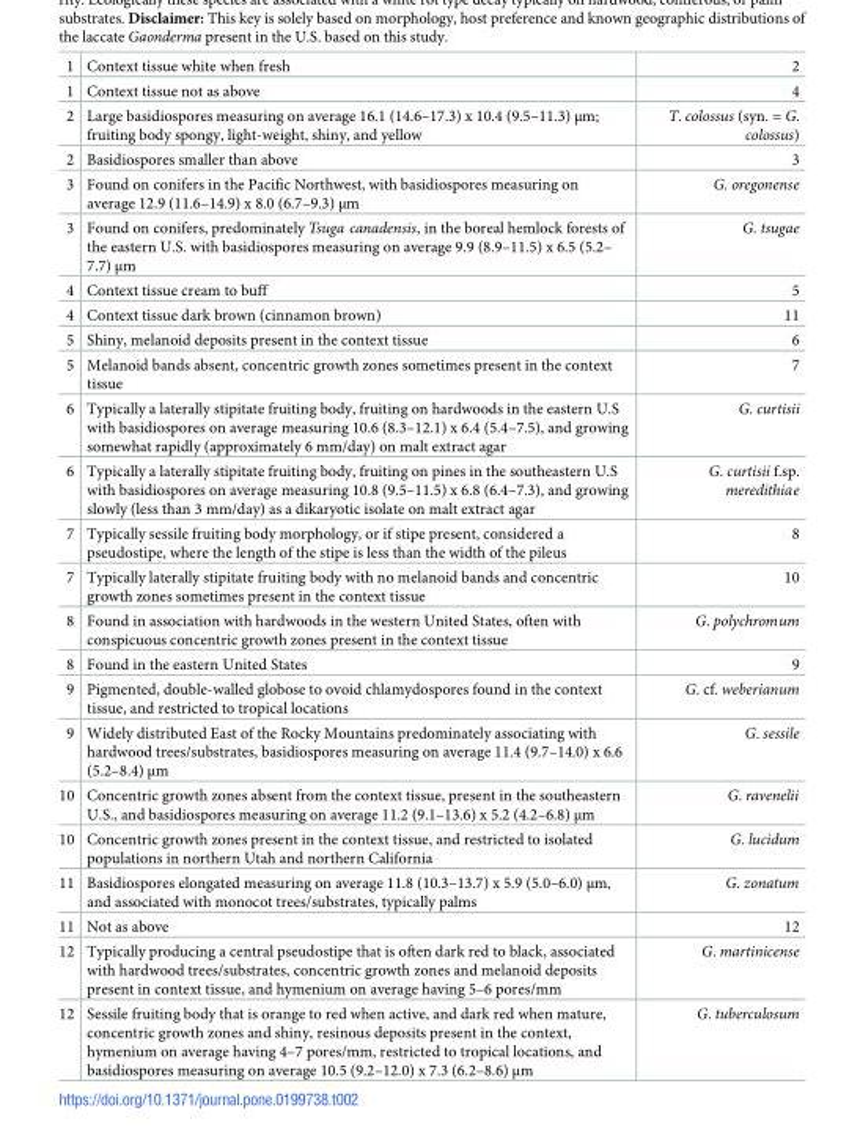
<table><tbody><tr><td>1</td><td>Context tissue white when fresh</td><td>2</td></tr><tr><td>1</td><td>Context tissue not as above</td><td>4</td></tr><tr><td>2</td><td>Large basidiospores measuring on average 16.1 (14.6–17.3) x 10.4 (9.5–11.3) μm; fruiting body spongy, light-weight, shiny, and yellow</td><td>T. colossus (syn. = G. colossus)</td></tr><tr><td>2</td><td>Basidiospores smaller than above</td><td>3</td></tr><tr><td>3</td><td>Found on conifers in the Pacific Northwest, with basidiospores measuring on average 12.9 (11.6–14.9) x 8.0 (6.7–9.3) μm</td><td>G. oregonense</td></tr><tr><td>3</td><td>Found on conifers, predominately Tsuga canadensis, in the boreal hemlock forests of the eastern U.S. with basidiospores measuring on average 9.9 (8.9–11.5) x 6.5 (5.2– 7.7) μm</td><td>G. tsugae</td></tr><tr><td>4</td><td>Context tissue cream to buff</td><td>5</td></tr><tr><td>4</td><td>Context tissue dark brown (cinnamon brown)</td><td>11</td></tr><tr><td>5</td><td>Shiny, melanoid deposits present in the context tissue</td><td>6</td></tr><tr><td>5</td><td>Melanoid bands absent, concentric growth zones sometimes present in the context tissue</td><td>7</td></tr><tr><td>6</td><td>Typically a laterally stipitate fruiting body, fruiting on hardwoods in the eastern U.S with basidiospores on average measuring 10.6 (8.3–12.1) x 6.4 (5.4–7.5), and growing somewhat rapidly (approximately 6 mm/day) on malt extract agar</td><td>G. curtisii</td></tr><tr><td>6</td><td>Typically a laterally stipitate fruiting body, fruiting on pines in the southeastern U.S with basidiospores on average measuring 10.8 (9.5–11.5) x 6.8 (6.4–7.3), and growing slowly (less than 3 mm/day) as a dikaryotic isolate on malt extract agar</td><td>G. curtisii f.sp. meredithiae</td></tr><tr><td>7</td><td>Typically sessile fruiting body morphology, or if stipe present, considered a pseudostipe, where the length of the stipe is less than the width of the pileus</td><td>8</td></tr><tr><td>7</td><td>Typically laterally stipitate fruiting body with no melanoid bands and concentric growth zones sometimes present in the context tissue</td><td>10</td></tr><tr><td>8</td><td>Found in association with hardwoods in the western United States, often with conspicuous concentric growth zones present in the context tissue</td><td>G. polychromum</td></tr><tr><td>8</td><td>Found in the eastern United States</td><td>9</td></tr><tr><td>9</td><td>Pigmented, double-walled globose to ovoid chlamydospores found in the context tissue, and restricted to tropical locations</td><td>G. cf. weberianum</td></tr><tr><td>9</td><td>Widely distributed East of the Rocky Mountains predominately associating with hardwood trees/substrates, basidiospores measuring on average 11.4 (9.7–14.0) x 6.6 (5.2–8.4) μm</td><td>G. sessile</td></tr><tr><td>10</td><td>Concentric growth zones absent from the context tissue, present in the southeastern U.S., and basidiospores measuring on average 11.2 (9.1–13.6) x 5.2 (4.2–6.8) μm</td><td>G. ravenelii</td></tr><tr><td>10</td><td>Concentric growth zones present in the context tissue, and restricted to isolated populations in northern Utah and northern California</td><td>G. lucidum</td></tr><tr><td>11</td><td>Basidiospores elongated measuring on average 11.8 (10.3–13.7) x 5.9 (5.0–6.0) μm, and associated with monocot trees/substrates, typically palms</td><td>G. zonatum</td></tr><tr><td>11</td><td>Not as above</td><td>12</td></tr><tr><td>12</td><td>Typically producing a central pseudostipe that is often dark red to black, associated with hardwood trees/substrates, concentric growth zones and melanoid deposits present in context tissue, and hymenium on average having 5–6 pores/mm</td><td>G. martinicense</td></tr><tr><td>12</td><td>Sessile fruiting body that is orange to red when active, and dark red when mature, concentric growth zones and shiny, resinous deposits present in the context, hymenium on average having 4–7 pores/mm, restricted to tropical locations, and basidiospores measuring on average 10.5 (9.2–12.0) x 7.3 (6.2–8.6) μm</td><td>G. tuberculosum</td></tr></tbody></table>